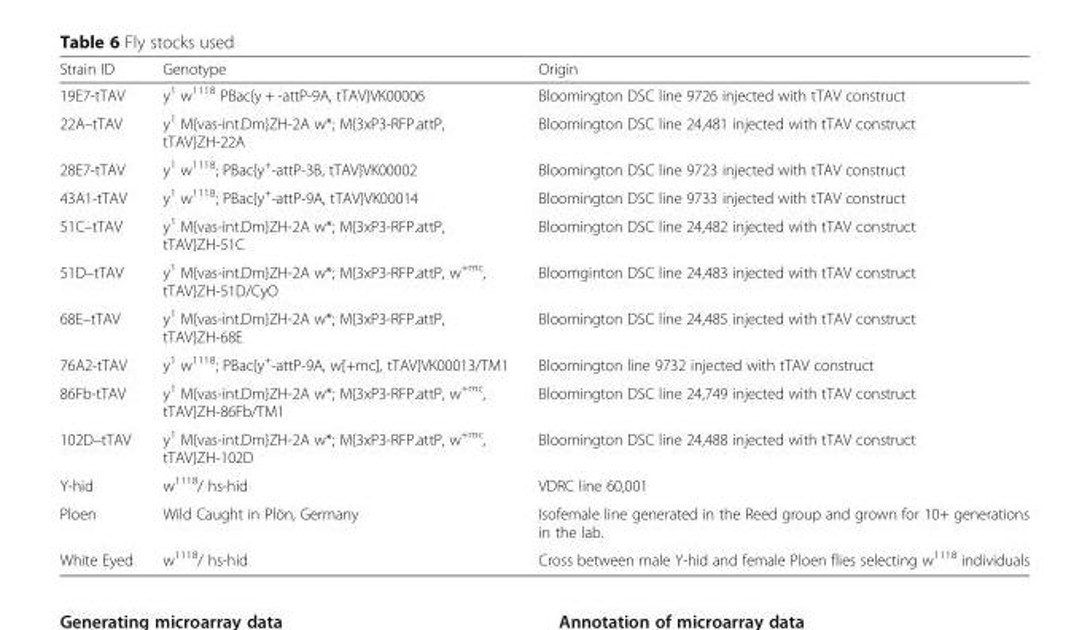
<table><thead><tr><td>Strain ID</td><td>Genotype</td><td>Origin</td></tr></thead><tbody><tr><td>19E7-tTAV</td><td>y<sup>1</sup> w<sup>1118</sup> PBac{y + -attP-9A, tTAV}VK00006</td><td>Bloomington DSC line 9726 injected with tTAV construct</td></tr><tr><td>22A–tTAV</td><td>y<sup>1</sup> M{vas-int.Dm}ZH-2A w*; M{3xP3-RFP.attP, tTAV}ZH-22A</td><td>Bloomington DSC line 24,481 injected with tTAV construct</td></tr><tr><td>28E7-tTAV</td><td>y<sup>1</sup> w<sup>1118</sup>; PBac{y<sup>+</sup>-attP-3B, tTAV}VK00002</td><td>Bloomington DSC line 9723 injected with tTAV construct</td></tr><tr><td>43A1-tTAV</td><td>y<sup>1</sup> w<sup>1118</sup>; PBac{y<sup>+</sup>-attP-9A, tTAV}VK00014</td><td>Bloomington DSC line 9733 injected with tTAV construct</td></tr><tr><td>51C–tTAV</td><td>y<sup>1</sup> M{vas-int.Dm}ZH-2A w*; M{3xP3-RFP.attP, tTAV}ZH-51C</td><td>Bloomington DSC line 24,482 injected with tTAV construct</td></tr><tr><td>51D–tTAV</td><td>y<sup>1</sup> M{vas-int.Dm}ZH-2A w*; M{3xP3-RFP.attP, w<sup>+mc</sup>, tTAV}ZH-51D/CyO</td><td>Bloomginton DSC line 24,483 injected with tTAV construct</td></tr><tr><td>68E–tTAV</td><td>y<sup>1</sup> M{vas-int.Dm}ZH-2A w*; M{3xP3-RFP.attP, tTAV}ZH-68E</td><td>Bloomington DSC line 24,485 injected with tTAV construct</td></tr><tr><td>76A2-tTAV</td><td>y<sup>1</sup> w<sup>1118</sup>; PBac{y<sup>+</sup>-attP-9A, w[+mc], tTAV}VK00013/TM1</td><td>Bloomington line 9732 injected with tTAV construct</td></tr><tr><td>86Fb-tTAV</td><td>y<sup>1</sup> M{vas-int.Dm}ZH-2A w*; M{3xP3-RFP.attP, w<sup>+mc</sup>, tTAV}ZH-86Fb/TM1</td><td>Bloomington DSC line 24,749 injected with tTAV construct</td></tr><tr><td>102D–tTAV</td><td>y<sup>1</sup> M{vas-int.Dm}ZH-2A w*; M{3xP3-RFP.attP, w<sup>+mc</sup>, tTAV}ZH-102D</td><td>Bloomington DSC line 24,488 injected with tTAV construct</td></tr><tr><td>Y-hid</td><td>w<sup>1118</sup>/ hs-hid</td><td>VDRC line 60,001</td></tr><tr><td>Ploen</td><td>Wild Caught in Plön, Germany</td><td>Isofemale line generated in the Reed group and grown for 10+ generations in the lab.</td></tr><tr><td>White Eyed</td><td>w<sup>1118</sup>/ hs-hid</td><td>Cross between male Y-hid and female Ploen flies selecting w<sup>1118</sup> individuals</td></tr></tbody></table>